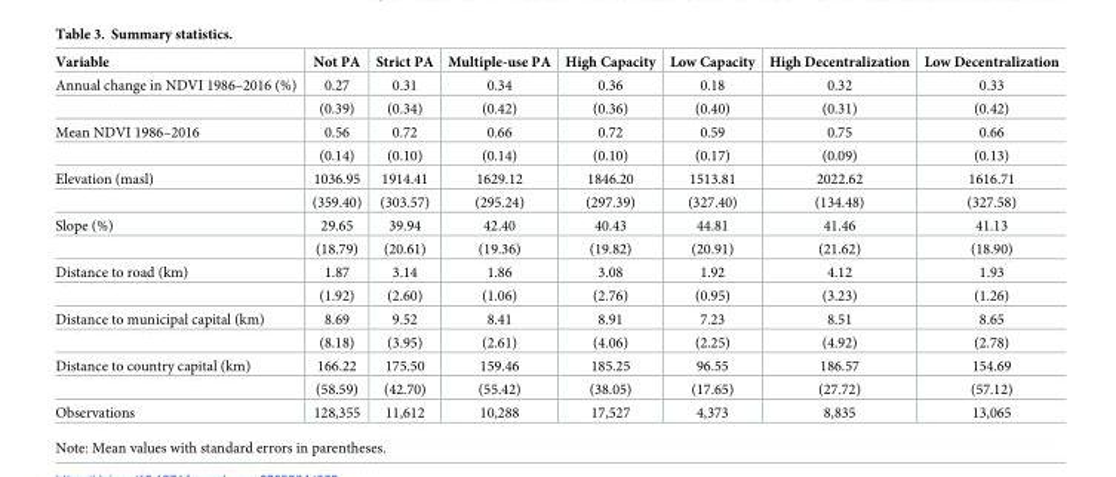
<table><thead><tr><td>Variable</td><td>Not PA</td><td>Strict PA</td><td>Multiple-use PA</td><td>High Capacity</td><td>Low Capacity</td><td>High Decentralization</td><td>Low Decentralization</td></tr></thead><tbody><tr><td rowspan="2">Annual change in NDVI 1986–2016 (%)</td><td>0.27</td><td>0.31</td><td>0.34</td><td>0.36</td><td>0.18</td><td>0.32</td><td>0.33</td></tr><tr><td>(0.39)</td><td>(0.34)</td><td>(0.42)</td><td>(0.36)</td><td>(0.40)</td><td>(0.31)</td><td>(0.42)</td></tr><tr><td rowspan="2">Mean NDVI 1986–2016</td><td>0.56</td><td>0.72</td><td>0.66</td><td>0.72</td><td>0.59</td><td>0.75</td><td>0.66</td></tr><tr><td>(0.14)</td><td>(0.10)</td><td>(0.14)</td><td>(0.10)</td><td>(0.17)</td><td>(0.09)</td><td>(0.13)</td></tr><tr><td rowspan="2">Elevation (masl)</td><td>1036.95</td><td>1914.41</td><td>1629.12</td><td>1846.20</td><td>1513.81</td><td>2022.62</td><td>1616.71</td></tr><tr><td>(359.40)</td><td>(303.57)</td><td>(295.24)</td><td>(297.39)</td><td>(327.40)</td><td>(134.48)</td><td>(327.58)</td></tr><tr><td rowspan="2">Slope (%)</td><td>29.65</td><td>39.94</td><td>42.40</td><td>40.43</td><td>44.81</td><td>41.46</td><td>41.13</td></tr><tr><td>(18.79)</td><td>(20.61)</td><td>(19.36)</td><td>(19.82)</td><td>(20.91)</td><td>(21.62)</td><td>(18.90)</td></tr><tr><td rowspan="2">Distance to road (km)</td><td>1.87</td><td>3.14</td><td>1.86</td><td>3.08</td><td>1.92</td><td>4.12</td><td>1.93</td></tr><tr><td>(1.92)</td><td>(2.60)</td><td>(1.06)</td><td>(2.76)</td><td>(0.95)</td><td>(3.23)</td><td>(1.26)</td></tr><tr><td rowspan="2">Distance to municipal capital (km)</td><td>8.69</td><td>9.52</td><td>8.41</td><td>8.91</td><td>7.23</td><td>8.51</td><td>8.65</td></tr><tr><td>(8.18)</td><td>(3.95)</td><td>(2.61)</td><td>(4.06)</td><td>(2.25)</td><td>(4.92)</td><td>(2.78)</td></tr><tr><td rowspan="2">Distance to country capital (km)</td><td>166.22</td><td>175.50</td><td>159.46</td><td>185.25</td><td>96.55</td><td>186.57</td><td>154.69</td></tr><tr><td>(58.59)</td><td>(42.70)</td><td>(55.42)</td><td>(38.05)</td><td>(17.65)</td><td>(27.72)</td><td>(57.12)</td></tr><tr><td>Observations</td><td>128,355</td><td>11,612</td><td>10,288</td><td>17,527</td><td>4,373</td><td>8,835</td><td>13,065</td></tr></tbody></table>